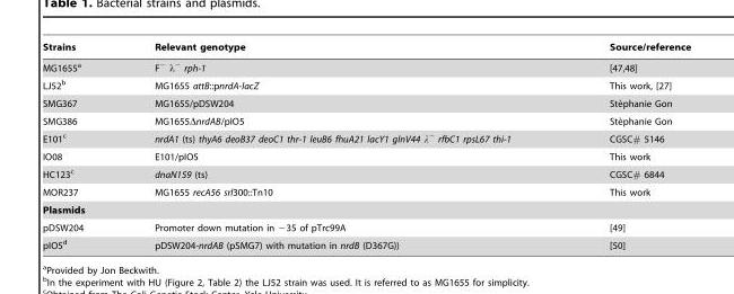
<table><thead><tr><td>Strains</td><td>Relevant genotype</td><td>Source/reference</td></tr></thead><tbody><tr><td>MG1655<sup>a</sup></td><td>F<sup>−</sup> λ<sup>−</sup> rph-1</td><td>[47,48]</td></tr><tr><td>LJ52<sup>b</sup></td><td>MG1655 attB::pnrdA-lacZ</td><td>This work, [27]</td></tr><tr><td>SMG367</td><td>MG1655/pDSW204</td><td>Ste`phanie Gon</td></tr><tr><td>SMG386</td><td>MG1655ΔnrdAB/pIO5</td><td>Ste`phanie Gon</td></tr><tr><td>E101<sup>c</sup></td><td>nrdA1 (ts) thyA6 deoB37 deoC1 thr-1 leuB6 fhuA21 lacY1 glnV44 λ<sup>−</sup> rfbC1 rpsL67 thi-1</td><td>CGSC# 5146</td></tr><tr><td>IO08</td><td>E101/pIO5</td><td>This work</td></tr><tr><td>HC123<sup>c</sup></td><td>dnaN159 (ts)</td><td>CGSC# 6844</td></tr><tr><td>MOR237</td><td>MG1655 recA56 srl300::Tn10</td><td>This work</td></tr><tr><td colspan="3">Plasmids</td></tr><tr><td>pDSW204</td><td>Promoter down mutation in −35 of pTrc99A</td><td>[49]</td></tr><tr><td>pIO5<sup>d</sup></td><td>pDSW204-nrdAB (pSMG7) with mutation in nrdB (D367G))</td><td>[50]</td></tr></tbody></table>